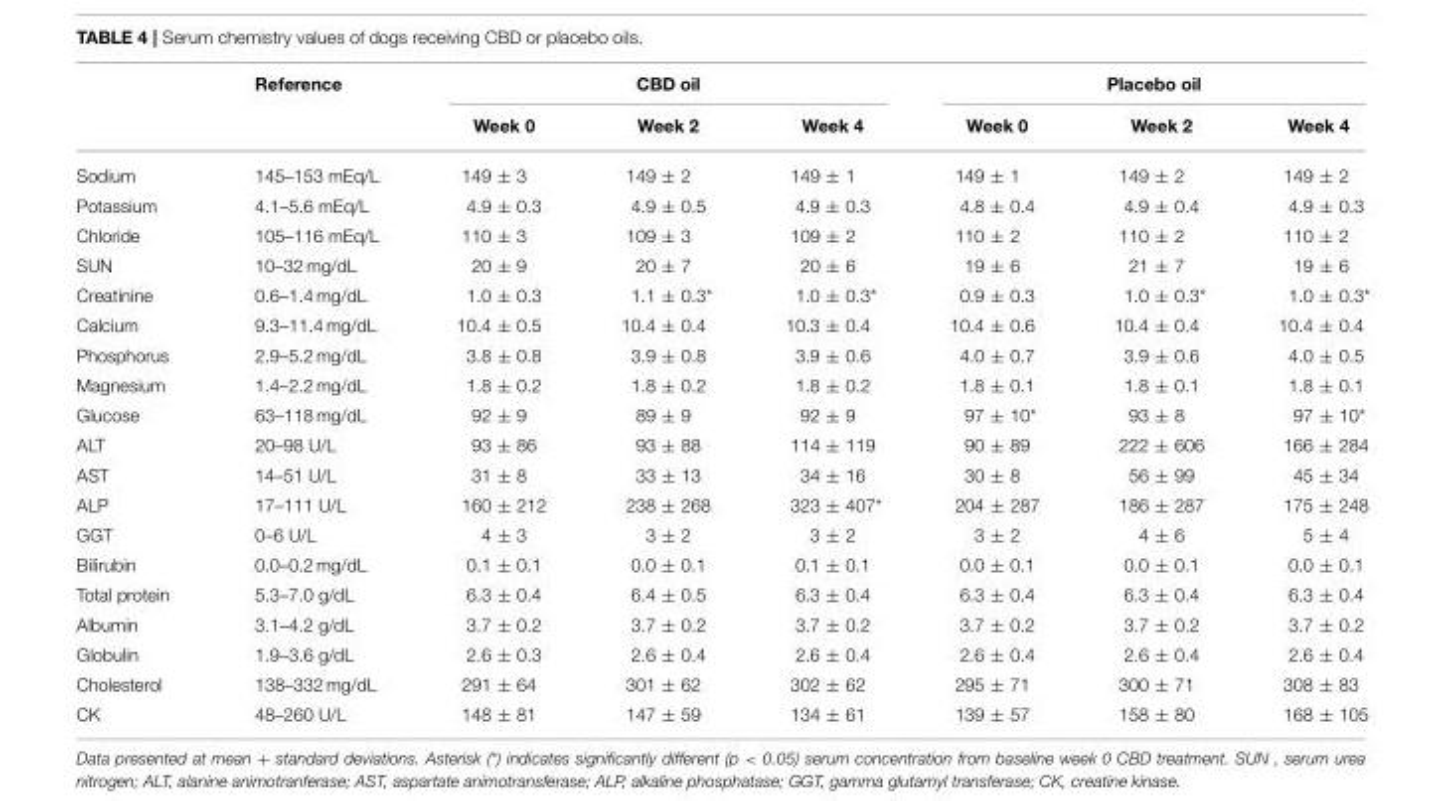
<table><thead><tr><td rowspan="2"></td><td rowspan="2">Reference</td><td colspan="3">CBD oil</td><td colspan="3">Placebo oil</td></tr><tr><td>Week 0</td><td>Week 2</td><td>Week 4</td><td>Week 0</td><td>Week 2</td><td>Week 4</td></tr></thead><tbody><tr><td>Sodium</td><td>145–153 mEq/L</td><td>149 ± 3</td><td>149 ± 2</td><td>149 ± 1</td><td>149 ± 1</td><td>149 ± 2</td><td>149 ± 2</td></tr><tr><td>Potassium</td><td>4.1–5.6 mEq/L</td><td>4.9 ± 0.3</td><td>4.9 ± 0.5</td><td>4.9 ± 0.3</td><td>4.8 ± 0.4</td><td>4.9 ± 0.4</td><td>4.9 ± 0.3</td></tr><tr><td>Chloride</td><td>105–116 mEq/L</td><td>110 ± 3</td><td>109 ± 3</td><td>109 ± 2</td><td>110 ± 2</td><td>110 ± 2</td><td>110 ± 2</td></tr><tr><td>SUN</td><td>10–32 mg/dL</td><td>20 ± 9</td><td>20 ± 7</td><td>20 ± 6</td><td>19 ± 6</td><td>21 ± 7</td><td>19 ± 6</td></tr><tr><td>Creatinine</td><td>0.6–1.4 mg/dL</td><td>1.0 ± 0.3</td><td>1.1 ± 0.3*</td><td>1.0 ± 0.3*</td><td>0.9 ± 0.3</td><td>1.0 ± 0.3*</td><td>1.0 ± 0.3*</td></tr><tr><td>Calcium</td><td>9.3–11.4 mg/dL</td><td>10.4 ± 0.5</td><td>10.4 ± 0.4</td><td>10.3 ± 0.4</td><td>10.4 ± 0.6</td><td>10.4 ± 0.4</td><td>10.4 ± 0.4</td></tr><tr><td>Phosphorus</td><td>2.9–5.2 mg/dL</td><td>3.8 ± 0.8</td><td>3.9 ± 0.8</td><td>3.9 ± 0.6</td><td>4.0 ± 0.7</td><td>3.9 ± 0.6</td><td>4.0 ± 0.5</td></tr><tr><td>Magnesium</td><td>1.4–2.2 mg/dL</td><td>1.8 ± 0.2</td><td>1.8 ± 0.2</td><td>1.8 ± 0.2</td><td>1.8 ± 0.1</td><td>1.8 ± 0.1</td><td>1.8 ± 0.1</td></tr><tr><td>Glucose</td><td>63–118 mg/dL</td><td>92 ± 9</td><td>89 ± 9</td><td>92 ± 9</td><td>97 ± 10*</td><td>93 ± 8</td><td>97 ± 10*</td></tr><tr><td>ALT</td><td>20–98 U/L</td><td>93 ± 86</td><td>93 ± 88</td><td>114 ± 119</td><td>90 ± 89</td><td>222 ± 606</td><td>166 ± 284</td></tr><tr><td>AST</td><td>14–51 U/L</td><td>31 ± 8</td><td>33 ± 13</td><td>34 ± 16</td><td>30 ± 8</td><td>56 ± 99</td><td>45 ± 34</td></tr><tr><td>ALP</td><td>17–111 U/L</td><td>160 ± 212</td><td>238 ± 268</td><td>323 ± 407*</td><td>204 ± 287</td><td>186 ± 287</td><td>175 ± 248</td></tr><tr><td>GGT</td><td>0–6 U/L</td><td>4 ± 3</td><td>3 ± 2</td><td>3 ± 2</td><td>3 ± 2</td><td>4 ± 6</td><td>5 ± 4</td></tr><tr><td>Bilirubin</td><td>0.0–0.2 mg/dL</td><td>0.1 ± 0.1</td><td>0.0 ± 0.1</td><td>0.1 ± 0.1</td><td>0.0 ± 0.1</td><td>0.0 ± 0.1</td><td>0.0 ± 0.1</td></tr><tr><td>Total protein</td><td>5.3–7.0 g/dL</td><td>6.3 ± 0.4</td><td>6.4 ± 0.5</td><td>6.3 ± 0.4</td><td>6.3 ± 0.4</td><td>6.3 ± 0.4</td><td>6.3 ± 0.4</td></tr><tr><td>Albumin</td><td>3.1–4.2 g/dL</td><td>3.7 ± 0.2</td><td>3.7 ± 0.2</td><td>3.7 ± 0.2</td><td>3.7 ± 0.2</td><td>3.7 ± 0.2</td><td>3.7 ± 0.2</td></tr><tr><td>Globulin</td><td>1.9–3.6 g/dL</td><td>2.6 ± 0.3</td><td>2.6 ± 0.4</td><td>2.6 ± 0.4</td><td>2.6 ± 0.4</td><td>2.6 ± 0.4</td><td>2.6 ± 0.4</td></tr><tr><td>Cholesterol</td><td>138–332 mg/dL</td><td>291 ± 64</td><td>301 ± 62</td><td>302 ± 62</td><td>295 ± 71</td><td>300 ± 71</td><td>308 ± 83</td></tr><tr><td>CK</td><td>48–260 U/L</td><td>148 ± 81</td><td>147 ± 59</td><td>134 ± 61</td><td>139 ± 57</td><td>158 ± 80</td><td>168 ± 105</td></tr></tbody></table>